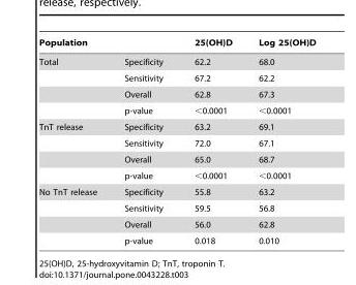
<table><thead><tr><td>Population</td><td></td><td>25(OH)D</td><td>Log 25(OH)D</td></tr></thead><tbody><tr><td rowspan="4">Total</td><td>Specificity</td><td>62.2</td><td>68.0</td></tr><tr><td>Sensitivity</td><td>67.2</td><td>62.2</td></tr><tr><td>Overall</td><td>62.8</td><td>67.3</td></tr><tr><td>p-value</td><td>&lt;0.0001</td><td>&lt;0.0001</td></tr><tr><td rowspan="4">TnT release</td><td>Specificity</td><td>63.2</td><td>69.1</td></tr><tr><td>Sensitivity</td><td>72.0</td><td>67.1</td></tr><tr><td>Overall</td><td>65.0</td><td>68.7</td></tr><tr><td>p-value</td><td>&lt;0.0001</td><td>&lt;0.0001</td></tr><tr><td rowspan="4">No TnT release</td><td>Specificity</td><td>55.8</td><td>63.2</td></tr><tr><td>Sensitivity</td><td>59.5</td><td>56.8</td></tr><tr><td>Overall</td><td>56.0</td><td>62.8</td></tr><tr><td>p-value</td><td>0.018</td><td>0.010</td></tr></tbody></table>